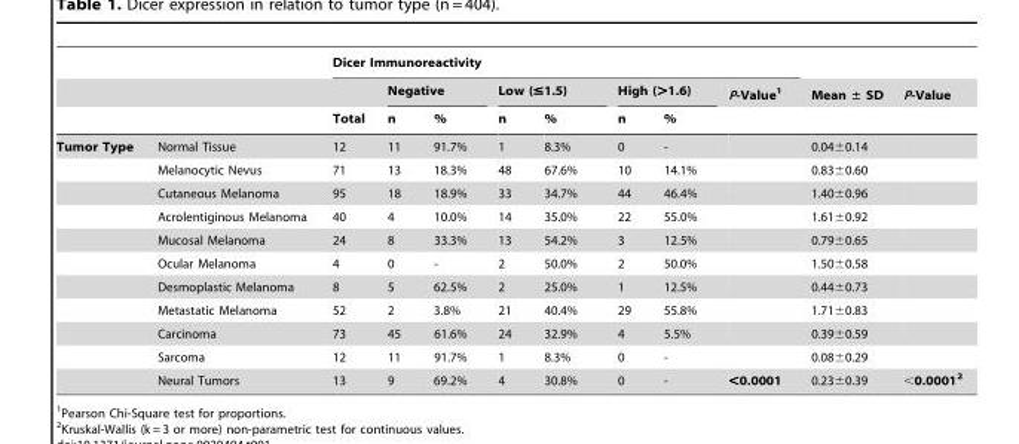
<table><thead><tr><td rowspan="3"></td><td rowspan="3"></td><td colspan="8">Dicer Immunoreactivity</td><td rowspan="3">Mean ± SD</td><td rowspan="3">P-Value</td></tr><tr><td rowspan="2">Total</td><td colspan="2">Negative</td><td colspan="2">Low (≤1.5)</td><td colspan="2">High (&gt;1.6)</td><td rowspan="2">P-Value<sup>1</sup></td></tr><tr><td>n</td><td>%</td><td>n</td><td>%</td><td>n</td><td>%</td></tr></thead><tbody><tr><td rowspan="11">Tumor Type</td><td>Normal Tissue</td><td>12</td><td>11</td><td>91.7%</td><td>1</td><td>8.3%</td><td>0</td><td>-</td><td></td><td>0.04±0.14</td><td></td></tr><tr><td>Melanocytic Nevus</td><td>71</td><td>13</td><td>18.3%</td><td>48</td><td>67.6%</td><td>10</td><td>14.1%</td><td></td><td>0.83±0.60</td><td></td></tr><tr><td>Cutaneous Melanoma</td><td>95</td><td>18</td><td>18.9%</td><td>33</td><td>34.7%</td><td>44</td><td>46.4%</td><td></td><td>1.40±0.96</td><td></td></tr><tr><td>Acrolentiginous Melanoma</td><td>40</td><td>4</td><td>10.0%</td><td>14</td><td>35.0%</td><td>22</td><td>55.0%</td><td></td><td>1.61±0.92</td><td></td></tr><tr><td>Mucosal Melanoma</td><td>24</td><td>8</td><td>33.3%</td><td>13</td><td>54.2%</td><td>3</td><td>12.5%</td><td></td><td>0.79±0.65</td><td></td></tr><tr><td>Ocular Melanoma</td><td>4</td><td>0</td><td>-</td><td>2</td><td>50.0%</td><td>2</td><td>50.0%</td><td></td><td>1.50±0.58</td><td></td></tr><tr><td>Desmoplastic Melanoma</td><td>8</td><td>5</td><td>62.5%</td><td>2</td><td>25.0%</td><td>1</td><td>12.5%</td><td></td><td>0.44±0.73</td><td></td></tr><tr><td>Metastatic Melanoma</td><td>52</td><td>2</td><td>3.8%</td><td>21</td><td>40.4%</td><td>29</td><td>55.8%</td><td></td><td>1.71±0.83</td><td></td></tr><tr><td>Carcinoma</td><td>73</td><td>45</td><td>61.6%</td><td>24</td><td>32.9%</td><td>4</td><td>5.5%</td><td></td><td>0.39±0.59</td><td></td></tr><tr><td>Sarcoma</td><td>12</td><td>11</td><td>91.7%</td><td>1</td><td>8.3%</td><td>0</td><td>-</td><td></td><td>0.08±0.29</td><td></td></tr><tr><td>Neural Tumors</td><td>13</td><td>9</td><td>69.2%</td><td>4</td><td>30.8%</td><td>0</td><td>-</td><td>&lt;0.0001</td><td>0.23±0.39</td><td>&lt;0.00012</td></tr></tbody></table>